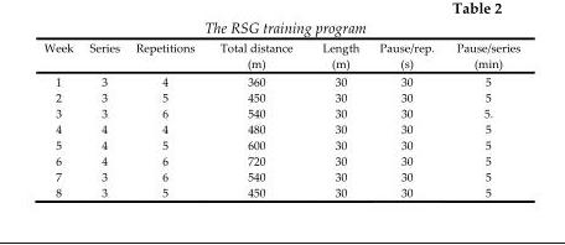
<table><thead><tr><td>Week</td><td>Series</td><td>Repetitions</td><td>Total distance (m)</td><td>Length (m)</td><td>Pause/rep. (s)</td><td>Pause/series (min)</td></tr></thead><tbody><tr><td>1</td><td>3</td><td>4</td><td>360</td><td>30</td><td>30</td><td>5</td></tr><tr><td>2</td><td>3</td><td>5</td><td>450</td><td>30</td><td>30</td><td>5</td></tr><tr><td>3</td><td>3</td><td>6</td><td>540</td><td>30</td><td>30</td><td>5.</td></tr><tr><td>4</td><td>4</td><td>4</td><td>480</td><td>30</td><td>30</td><td>5</td></tr><tr><td>5</td><td>4</td><td>5</td><td>600</td><td>30</td><td>30</td><td>5</td></tr><tr><td>6</td><td>4</td><td>6</td><td>720</td><td>30</td><td>30</td><td>5</td></tr><tr><td>7</td><td>3</td><td>6</td><td>540</td><td>30</td><td>30</td><td>5</td></tr><tr><td>8</td><td>3</td><td>5</td><td>450</td><td>30</td><td>30</td><td>5</td></tr></tbody></table>